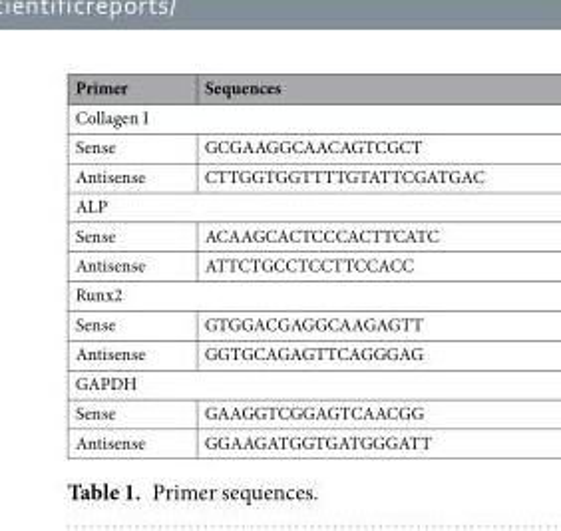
<table><thead><tr><td>Primer</td><td>Sequences</td></tr></thead><tbody><tr><td colspan="2">Collagen I</td></tr><tr><td>Sense</td><td>GCGAAGGCAACAGTCGCT</td></tr><tr><td>Antisense</td><td>CTTGGTGGTTTTGTATTCGATGAC</td></tr><tr><td colspan="2">ALP</td></tr><tr><td>Sense</td><td>ACAAGCACTCCCACTTCATC</td></tr><tr><td>Antisense</td><td>ATTCTGCCTCCTTCCACC</td></tr><tr><td colspan="2">Runx2</td></tr><tr><td>Sense</td><td>GTGGACGAGGCAAGAGTT</td></tr><tr><td>Antisense</td><td>GGTGCAGAGTTCAGGGAG</td></tr><tr><td colspan="2">GAPDH</td></tr><tr><td>Sense</td><td>GAAGGTCGGAGTCAACGG</td></tr><tr><td>Antisense</td><td>GGAAGATGGTGATGGGATT</td></tr></tbody></table>